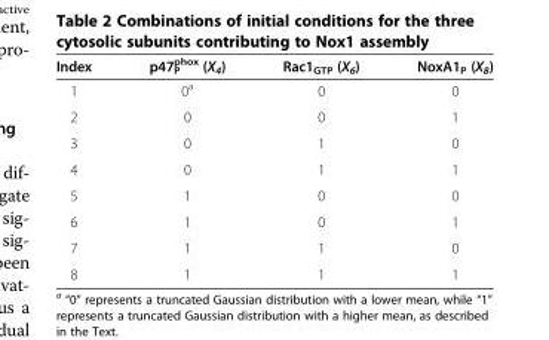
<table><thead><tr><td>Index</td><td>p47<sup>phox</sup> <sub>P</sub> (X<sub>4</sub>)</td><td>Rac1<sub>GTP</sub> (X<sub>6</sub>)</td><td>NoxA1<sub>P</sub> (X<sub>8</sub>)</td></tr></thead><tbody><tr><td>1</td><td>0<sup>a</sup></td><td>0</td><td>0</td></tr><tr><td>2</td><td>0</td><td>0</td><td>1</td></tr><tr><td>3</td><td>0</td><td>1</td><td>0</td></tr><tr><td>4</td><td>0</td><td>1</td><td>1</td></tr><tr><td>5</td><td>1</td><td>0</td><td>0</td></tr><tr><td>6</td><td>1</td><td>0</td><td>1</td></tr><tr><td>7</td><td>1</td><td>1</td><td>0</td></tr><tr><td>8</td><td>1</td><td>1</td><td>1</td></tr></tbody></table>